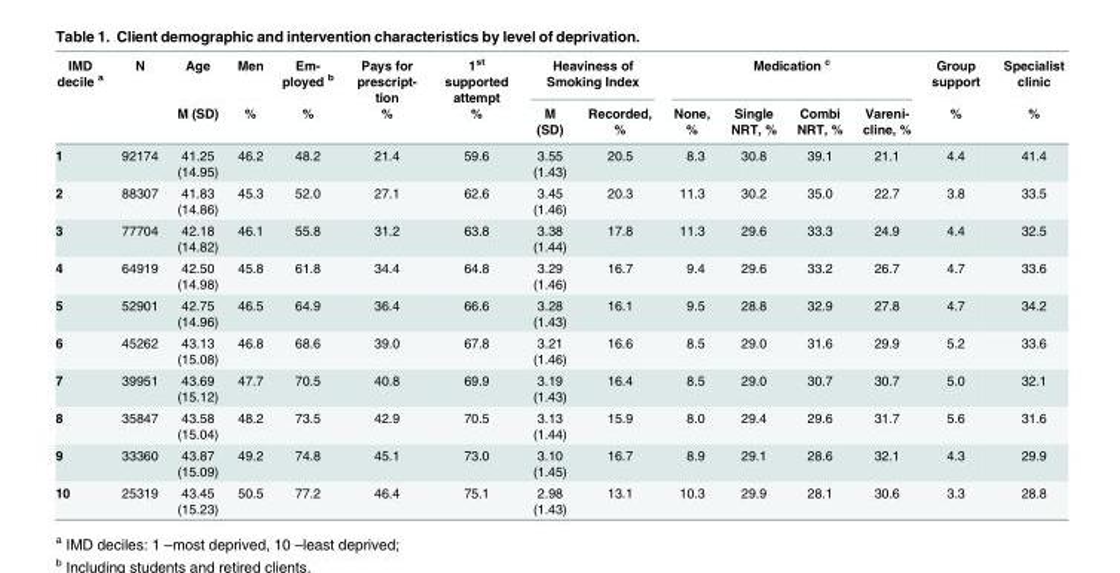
<table><thead><tr><td rowspan="2">IMD decile <sup>a</sup></td><td rowspan="2">N</td><td rowspan="2">Age M (SD)</td><td rowspan="2">Men %</td><td rowspan="2">Em- ployed <sup>b</sup> %</td><td rowspan="2">Pays for prescript- tion %</td><td rowspan="2">1<sup>st</sup> supported attempt %</td><td colspan="2">Heaviness of Smoking Index</td><td colspan="4">Medication <sup>c</sup></td><td rowspan="2">Group support %</td><td rowspan="2">Specialist clinic %</td></tr><tr><td>M (SD)</td><td>Recorded, %</td><td>None, %</td><td>Single NRT, %</td><td>Combi NRT, %</td><td>Vareni- cline, %</td></tr></thead><tbody><tr><td>1</td><td>92174</td><td>41.25 (14.95)</td><td>46.2</td><td>48.2</td><td>21.4</td><td>59.6</td><td>3.55 (1.43)</td><td>20.5</td><td>8.3</td><td>30.8</td><td>39.1</td><td>21.1</td><td>4.4</td><td>41.4</td></tr><tr><td>2</td><td>88307</td><td>41.83 (14.86)</td><td>45.3</td><td>52.0</td><td>27.1</td><td>62.6</td><td>3.45 (1.46)</td><td>20.3</td><td>11.3</td><td>30.2</td><td>35.0</td><td>22.7</td><td>3.8</td><td>33.5</td></tr><tr><td>3</td><td>77704</td><td>42.18 (14.82)</td><td>46.1</td><td>55.8</td><td>31.2</td><td>63.8</td><td>3.38 (1.44)</td><td>17.8</td><td>11.3</td><td>29.6</td><td>33.3</td><td>24.9</td><td>4.4</td><td>32.5</td></tr><tr><td>4</td><td>64919</td><td>42.50 (14.98)</td><td>45.8</td><td>61.8</td><td>34.4</td><td>64.8</td><td>3.29 (1.46)</td><td>16.7</td><td>9.4</td><td>29.6</td><td>33.2</td><td>26.7</td><td>4.7</td><td>33.6</td></tr><tr><td>5</td><td>52901</td><td>42.75 (14.96)</td><td>46.5</td><td>64.9</td><td>36.4</td><td>66.6</td><td>3.28 (1.43)</td><td>16.1</td><td>9.5</td><td>28.8</td><td>32.9</td><td>27.8</td><td>4.7</td><td>34.2</td></tr><tr><td>6</td><td>45262</td><td>43.13 (15.08)</td><td>46.8</td><td>68.6</td><td>39.0</td><td>67.8</td><td>3.21 (1.46)</td><td>16.6</td><td>8.5</td><td>29.0</td><td>31.6</td><td>29.9</td><td>5.2</td><td>33.6</td></tr><tr><td>7</td><td>39951</td><td>43.69 (15.12)</td><td>47.7</td><td>70.5</td><td>40.8</td><td>69.9</td><td>3.19 (1.43)</td><td>16.4</td><td>8.5</td><td>29.0</td><td>30.7</td><td>30.7</td><td>5.0</td><td>32.1</td></tr><tr><td>8</td><td>35847</td><td>43.58 (15.04)</td><td>48.2</td><td>73.5</td><td>42.9</td><td>70.5</td><td>3.13 (1.44)</td><td>15.9</td><td>8.0</td><td>29.4</td><td>29.6</td><td>31.7</td><td>5.6</td><td>31.6</td></tr><tr><td>9</td><td>33360</td><td>43.87 (15.09)</td><td>49.2</td><td>74.8</td><td>45.1</td><td>73.0</td><td>3.10 (1.45)</td><td>16.7</td><td>8.9</td><td>29.1</td><td>28.6</td><td>32.1</td><td>4.3</td><td>29.9</td></tr><tr><td>10</td><td>25319</td><td>43.45 (15.23)</td><td>50.5</td><td>77.2</td><td>46.4</td><td>75.1</td><td>2.98 (1.43)</td><td>13.1</td><td>10.3</td><td>29.9</td><td>28.1</td><td>30.6</td><td>3.3</td><td>28.8</td></tr></tbody></table>